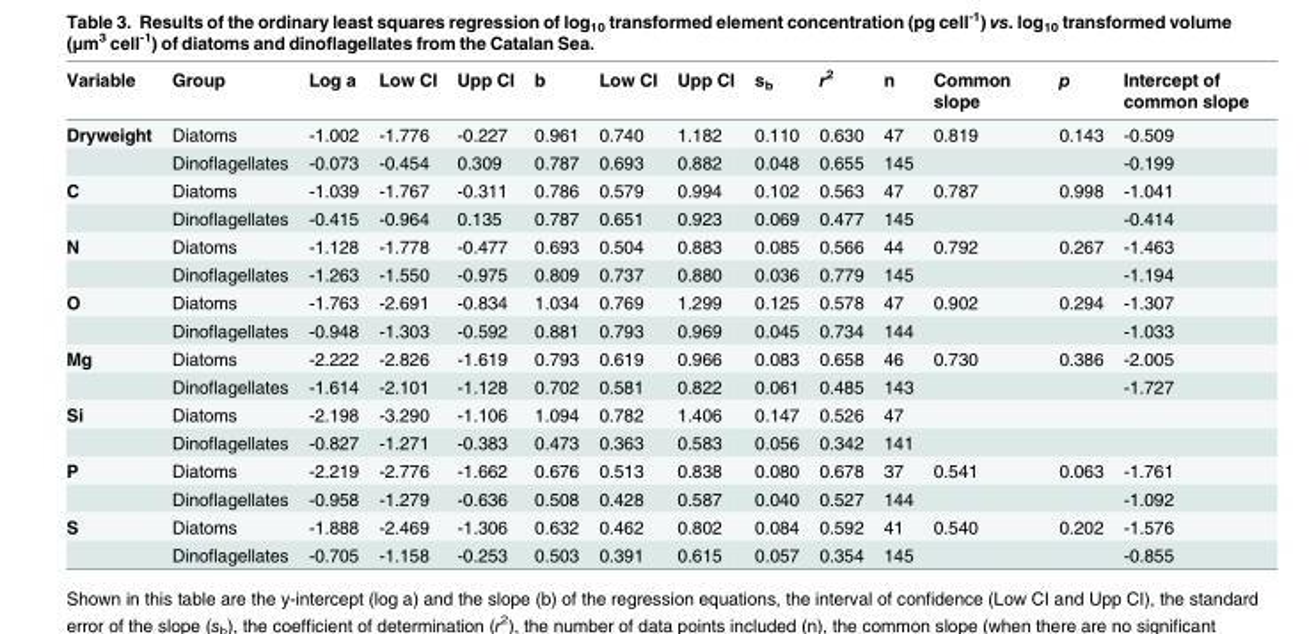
<table><thead><tr><td>Variable</td><td>Group</td><td>Log a</td><td>Low CI</td><td>Upp CI</td><td>b</td><td>Low CI</td><td>Upp CI</td><td>s<sub>b</sub></td><td>r<sup>2</sup></td><td>n</td><td>Common slope</td><td>p</td><td>Intercept of common slope</td></tr></thead><tbody><tr><td rowspan="2">Dryweight</td><td>Diatoms</td><td>-1.002</td><td>-1.776</td><td>-0.227</td><td>0.961</td><td>0.740</td><td>1.182</td><td>0.110</td><td>0.630</td><td>47</td><td>0.819</td><td>0.143</td><td>-0.509</td></tr><tr><td>Dinoflagellates</td><td>-0.073</td><td>-0.454</td><td>0.309</td><td>0.787</td><td>0.693</td><td>0.882</td><td>0.048</td><td>0.655</td><td>145</td><td></td><td></td><td>-0.199</td></tr><tr><td rowspan="2">C</td><td>Diatoms</td><td>-1.039</td><td>-1.767</td><td>-0.311</td><td>0.786</td><td>0.579</td><td>0.994</td><td>0.102</td><td>0.563</td><td>47</td><td>0.787</td><td>0.998</td><td>-1.041</td></tr><tr><td>Dinoflagellates</td><td>-0.415</td><td>-0.964</td><td>0.135</td><td>0.787</td><td>0.651</td><td>0.923</td><td>0.069</td><td>0.477</td><td>145</td><td></td><td></td><td>-0.414</td></tr><tr><td rowspan="2">N</td><td>Diatoms</td><td>-1.128</td><td>-1.778</td><td>-0.477</td><td>0.693</td><td>0.504</td><td>0.883</td><td>0.085</td><td>0.566</td><td>44</td><td>0.792</td><td>0.267</td><td>-1.463</td></tr><tr><td>Dinoflagellates</td><td>-1.263</td><td>-1.550</td><td>-0.975</td><td>0.809</td><td>0.737</td><td>0.880</td><td>0.036</td><td>0.779</td><td>145</td><td></td><td></td><td>-1.194</td></tr><tr><td rowspan="2">O</td><td>Diatoms</td><td>-1.763</td><td>-2.691</td><td>-0.834</td><td>1.034</td><td>0.769</td><td>1.299</td><td>0.125</td><td>0.578</td><td>47</td><td>0.902</td><td>0.294</td><td>-1.307</td></tr><tr><td>Dinoflagellates</td><td>-0.948</td><td>-1.303</td><td>-0.592</td><td>0.881</td><td>0.793</td><td>0.969</td><td>0.045</td><td>0.734</td><td>144</td><td></td><td></td><td>-1.033</td></tr><tr><td rowspan="2">Mg</td><td>Diatoms</td><td>-2.222</td><td>-2.826</td><td>-1.619</td><td>0.793</td><td>0.619</td><td>0.966</td><td>0.083</td><td>0.658</td><td>46</td><td>0.730</td><td>0.386</td><td>-2.005</td></tr><tr><td>Dinoflagellates</td><td>-1.614</td><td>-2.101</td><td>-1.128</td><td>0.702</td><td>0.581</td><td>0.822</td><td>0.061</td><td>0.485</td><td>143</td><td></td><td></td><td>-1.727</td></tr><tr><td rowspan="2">Si</td><td>Diatoms</td><td>-2.198</td><td>-3.290</td><td>-1.106</td><td>1.094</td><td>0.782</td><td>1.406</td><td>0.147</td><td>0.526</td><td>47</td><td></td><td></td><td></td></tr><tr><td>Dinoflagellates</td><td>-0.827</td><td>-1.271</td><td>-0.383</td><td>0.473</td><td>0.363</td><td>0.583</td><td>0.056</td><td>0.342</td><td>141</td><td></td><td></td><td></td></tr><tr><td rowspan="2">P</td><td>Diatoms</td><td>-2.219</td><td>-2.776</td><td>-1.662</td><td>0.676</td><td>0.513</td><td>0.838</td><td>0.080</td><td>0.678</td><td>37</td><td>0.541</td><td>0.063</td><td>-1.761</td></tr><tr><td>Dinoflagellates</td><td>-0.958</td><td>-1.279</td><td>-0.636</td><td>0.508</td><td>0.428</td><td>0.587</td><td>0.040</td><td>0.527</td><td>144</td><td></td><td></td><td>-1.092</td></tr><tr><td rowspan="2">S</td><td>Diatoms</td><td>-1.888</td><td>-2.469</td><td>-1.306</td><td>0.632</td><td>0.462</td><td>0.802</td><td>0.084</td><td>0.592</td><td>41</td><td>0.540</td><td>0.202</td><td>-1.576</td></tr><tr><td>Dinoflagellates</td><td>-0.705</td><td>-1.158</td><td>-0.253</td><td>0.503</td><td>0.391</td><td>0.615</td><td>0.057</td><td>0.354</td><td>145</td><td></td><td></td><td>-0.855</td></tr></tbody></table>